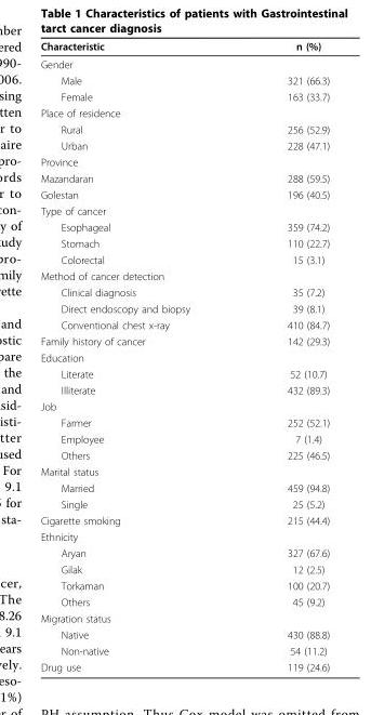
<table><thead><tr><td>Characteristic</td><td>n (%)</td></tr></thead><tbody><tr><td colspan="2">Gender</td></tr><tr><td>Male</td><td>321 (66.3)</td></tr><tr><td>Female</td><td>163 (33.7)</td></tr><tr><td colspan="2">Place of residence</td></tr><tr><td>Rural</td><td>256 (52.9)</td></tr><tr><td>Urban</td><td>228 (47.1)</td></tr><tr><td colspan="2">Province</td></tr><tr><td>Mazandaran</td><td>288 (59.5)</td></tr><tr><td>Golestan</td><td>196 (40.5)</td></tr><tr><td colspan="2">Type of cancer</td></tr><tr><td>Esophageal</td><td>359 (74.2)</td></tr><tr><td>Stomach</td><td>110 (22.7)</td></tr><tr><td>Colorectal</td><td>15 (3.1)</td></tr><tr><td colspan="2">Method of cancer detection</td></tr><tr><td>Clinical diagnosis</td><td>35 (7.2)</td></tr><tr><td>Direct endoscopy and biopsy</td><td>39 (8.1)</td></tr><tr><td>Conventional chest x-ray</td><td>410 (84.7)</td></tr><tr><td>Family history of cancer</td><td>142 (29.3)</td></tr><tr><td colspan="2">Education</td></tr><tr><td>Literate</td><td>52 (10.7)</td></tr><tr><td>Illiterate</td><td>432 (89.3)</td></tr><tr><td colspan="2">Job</td></tr><tr><td>Farmer</td><td>252 (52.1)</td></tr><tr><td>Employee</td><td>7 (1.4)</td></tr><tr><td>Others</td><td>225 (46.5)</td></tr><tr><td colspan="2">Marital status</td></tr><tr><td>Married</td><td>459 (94.8)</td></tr><tr><td>Single</td><td>25 (5.2)</td></tr><tr><td>Cigarette smoking</td><td>215 (44.4)</td></tr><tr><td colspan="2">Ethnicity</td></tr><tr><td>Aryan</td><td>327 (67.6)</td></tr><tr><td>Gilak</td><td>12 (2.5)</td></tr><tr><td>Torkaman</td><td>100 (20.7)</td></tr><tr><td>Others</td><td>45 (9.2)</td></tr><tr><td colspan="2">Migration status</td></tr><tr><td>Native</td><td>430 (88.8)</td></tr><tr><td>Non-native</td><td>54 (11.2)</td></tr><tr><td>Drug use</td><td>119 (24.6)</td></tr></tbody></table>